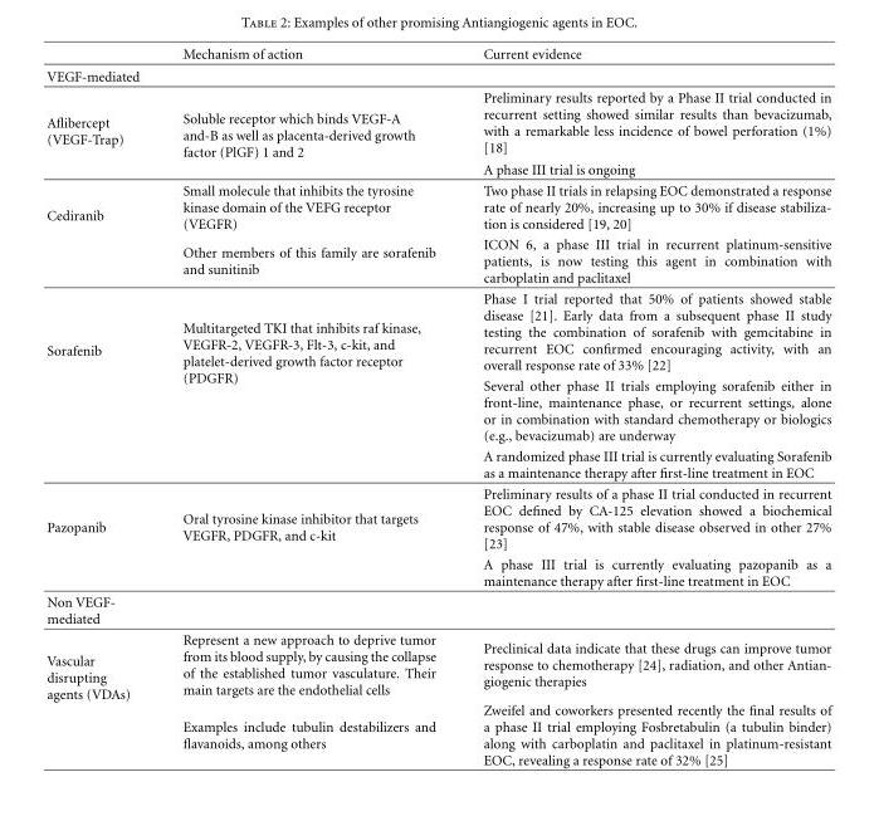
<table><thead><tr><td></td><td>Mechanism of action</td><td>Current evidence</td></tr></thead><tbody><tr><td colspan="3">VEGF-mediated</td></tr><tr><td rowspan="2">Aflibercept (VEGF-Trap)</td><td rowspan="2">Soluble receptor which binds VEGF-A and-B as well as placenta-derived growth factor (PlGF) 1 and 2</td><td>Preliminary results reported by a Phase II trial conducted in recurrent setting showed similar results than bevacizumab, with a remarkable less incidence of bowel perforation (1%) [18]</td></tr><tr><td>A phase III trial is ongoing</td></tr><tr><td rowspan="2">Cediranib</td><td>Small molecule that inhibits the tyrosine kinase domain of the VEFG receptor (VEGFR)</td><td>Two phase II trials in relapsing EOC demonstrated a response rate of nearly 20%, increasing up to 30% if disease stabiliza- tion is considered [19, 20]</td></tr><tr><td>Other members of this family are sorafenib and sunitinib</td><td>ICON 6, a phase III trial in recurrent platinum-sensitive patients, is now testing this agent in combination with carboplatin and paclitaxel</td></tr><tr><td rowspan="3">Sorafenib</td><td rowspan="3">Multitargeted TKI that inhibits raf kinase, VEGFR-2, VEGFR-3, Flt-3, c-kit, and platelet-derived growth factor receptor (PDGFR)</td><td>Phase I trial reported that 50% of patients showed stable disease [21]. Early data from a subsequent phase II study testing the combination of sorafenib with gemcitabine in recurrent EOC confirmed encouraging activity, with an overall response rate of 33% [22]</td></tr><tr><td>Several other phase II trials employing sorafenib either in front-line, maintenance phase, or recurrent settings, alone or in combination with standard chemotherapy or biologics (e.g., bevacizumab) are underway</td></tr><tr><td>A randomized phase III trial is currently evaluating Sorafenib as a maintenance therapy after first-line treatment in EOC</td></tr><tr><td rowspan="2">Pazopanib</td><td rowspan="2">Oral tyrosine kinase inhibitor that targets VEGFR, PDGFR, and c-kit</td><td>Preliminary results of a phase II trial conducted in recurrent EOC defined by CA-125 elevation showed a biochemical response of 47%, with stable disease observed in other 27% [23]</td></tr><tr><td>A phase III trial is currently evaluating pazopanib as a maintenance therapy after first-line treatment in EOC</td></tr><tr><td colspan="3">Non VEGF- mediated</td></tr><tr><td rowspan="2">Vascular disrupting agents (VDAs)</td><td>Represent a new approach to deprive tumor from its blood supply, by causing the collapse of the established tumor vasculature. Their main targets are the endothelial cells</td><td>Preclinical data indicate that these drugs can improve tumor response to chemotherapy [24], radiation, and other Antian- giogenic therapies</td></tr><tr><td>Examples include tubulin destabilizers and flavanoids, among others</td><td>Zweifel and coworkers presented recently the final results of a phase II trial employing Fosbretabulin (a tubulin binder) along with carboplatin and paclitaxel in platinum-resistant EOC, revealing a response rate of 32% [25]</td></tr></tbody></table>